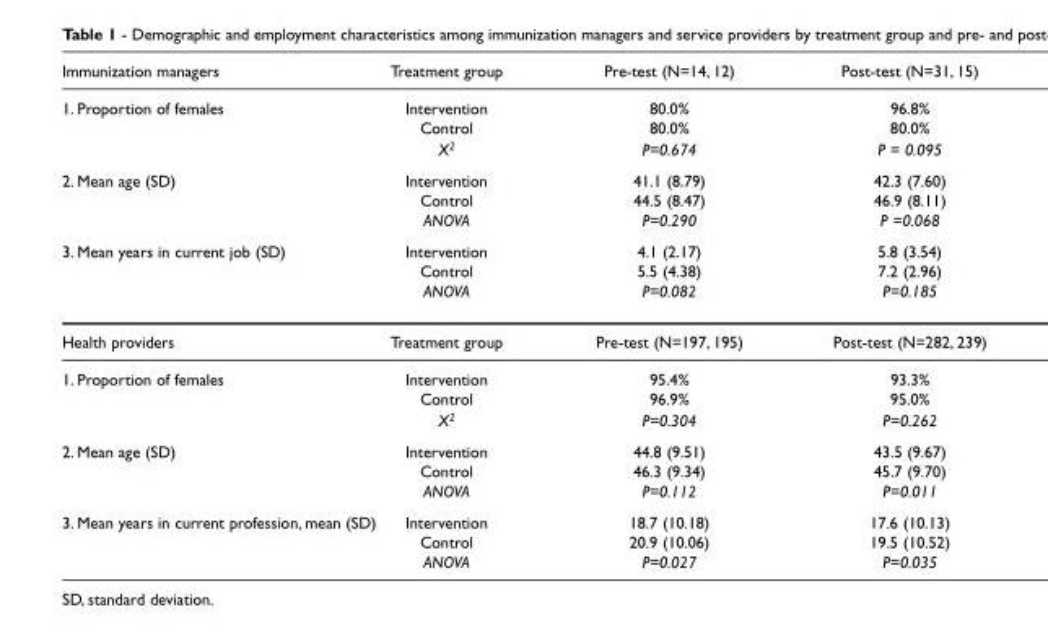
<table><thead><tr><td>Immunization managers</td><td>Treatment group</td><td>Pre-test (N=14, 12)</td><td>Post-test (N=31, 15)</td></tr></thead><tbody><tr><td rowspan="3">1. Proportion of females</td><td>Intervention</td><td>80.0%</td><td>96.8%</td></tr><tr><td>Control</td><td>80.0%</td><td>80.0%</td></tr><tr><td>X<sup>2</sup></td><td>P=0.674</td><td>P = 0.095</td></tr><tr><td rowspan="3">2. Mean age (SD)</td><td>Intervention</td><td>41.1 (8.79)</td><td>42.3 (7.60)</td></tr><tr><td>Control</td><td>44.5 (8.47)</td><td>46.9 (8.11)</td></tr><tr><td>ANOVA</td><td>P=0.290</td><td>P =0.068</td></tr><tr><td rowspan="3">3. Mean years in current job (SD)</td><td>Intervention</td><td>4.1 (2.17)</td><td>5.8 (3.54)</td></tr><tr><td>Control</td><td>5.5 (4.38)</td><td>7.2 (2.96)</td></tr><tr><td>ANOVA</td><td>P=0.082</td><td>P=0.185</td></tr><tr><td>Health providers</td><td>Treatment group</td><td>Pre-test (N=197, 195)</td><td>Post-test (N=282, 239)</td></tr><tr><td rowspan="3">1. Proportion of females</td><td>Intervention</td><td>95.4%</td><td>93.3%</td></tr><tr><td>Control</td><td>96.9%</td><td>95.0%</td></tr><tr><td>X<sup>2</sup></td><td>P=0.304</td><td>P=0.262</td></tr><tr><td rowspan="3">2. Mean age (SD)</td><td>Intervention</td><td>44.8 (9.51)</td><td>43.5 (9.67)</td></tr><tr><td>Control</td><td>46.3 (9.34)</td><td>45.7 (9.70)</td></tr><tr><td>ANOVA</td><td>P=0.112</td><td>P=0.011</td></tr><tr><td rowspan="3">3. Mean years in current profession, mean (SD)</td><td>Intervention</td><td>18.7 (10.18)</td><td>17.6 (10.13)</td></tr><tr><td>Control</td><td>20.9 (10.06)</td><td>19.5 (10.52)</td></tr><tr><td>ANOVA</td><td>P=0.027</td><td>P=0.035</td></tr></tbody></table>